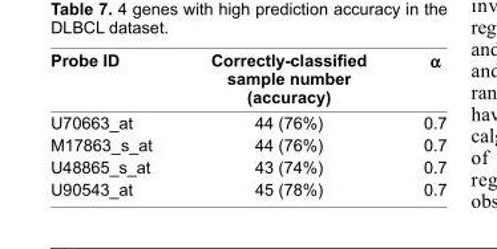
<table><thead><tr><td>Probe ID</td><td>Correctly-classifi ed sample number (accuracy)</td><td>α</td></tr></thead><tbody><tr><td>U70663_at</td><td>44 (76%)</td><td>0.7</td></tr><tr><td>M17863_s_at</td><td>44 (76%)</td><td>0.7</td></tr><tr><td>U48865_s_at</td><td>43 (74%)</td><td>0.7</td></tr><tr><td>U90543_at</td><td>45 (78%)</td><td>0.7</td></tr></tbody></table>